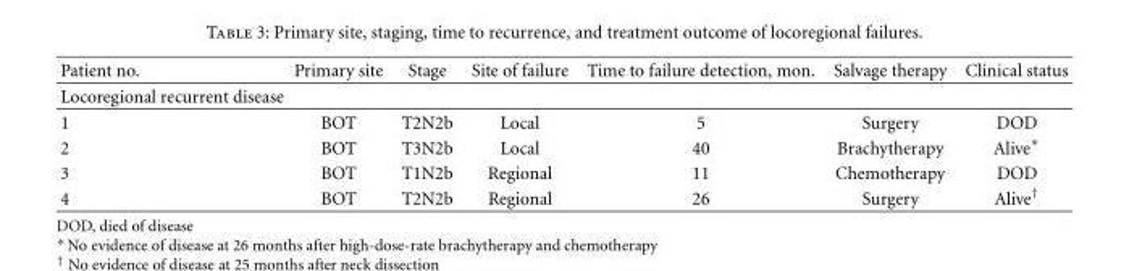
<table><thead><tr><td>Patient no.</td><td>Primary site</td><td>Stage</td><td>Site of failure</td><td>Time to failure detection, mon.</td><td>Salvage therapy</td><td>Clinical status</td></tr></thead><tbody><tr><td colspan="7">Locoregional recurrent disease</td></tr><tr><td>1</td><td>BOT</td><td>T2N2b</td><td>Local</td><td>5</td><td>Surgery</td><td>DOD</td></tr><tr><td>2</td><td>BOT</td><td>T3N2b</td><td>Local</td><td>40</td><td>Brachytherapy</td><td>Alive∗</td></tr><tr><td>3</td><td>BOT</td><td>T1N2b</td><td>Regional</td><td>11</td><td>Chemotherapy</td><td>DOD</td></tr><tr><td>4</td><td>BOT</td><td>T2N2b</td><td>Regional</td><td>26</td><td>Surgery</td><td>Alive<sup>†</sup></td></tr></tbody></table>